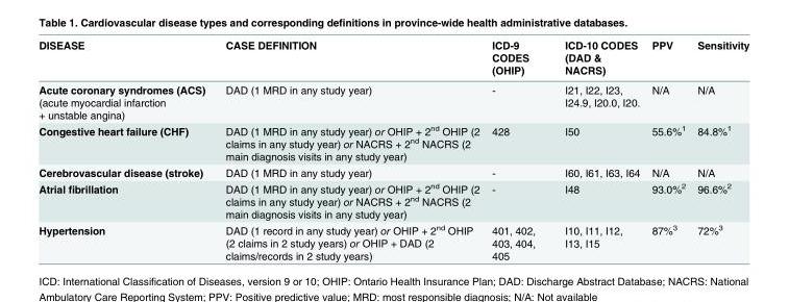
<table><thead><tr><td>DISEASE</td><td>CASE DEFINITION</td><td>ICD-9 CODES (OHIP)</td><td>ICD-10 CODES (DAD &amp; NACRS)</td><td>PPV</td><td>Sensitivity</td></tr></thead><tbody><tr><td>Acute coronary syndromes (ACS) (acute myocardial infarction + unstable angina)</td><td>DAD (1 MRD in any study year)</td><td>-</td><td>I21, I22, I23, I24.9, I20.0, I20.</td><td>N/A</td><td>N/A</td></tr><tr><td>Congestive heart failure (CHF)</td><td>DAD (1 MRD in any study year) or OHIP + 2<sup>nd</sup> OHIP (2 claims in any study year) or NACRS + 2<sup>nd</sup> NACRS (2 main diagnosis visits in any study year)</td><td>428</td><td>I50</td><td>55.6%<sup>1</sup></td><td>84.8%<sup>1</sup></td></tr><tr><td>Cerebrovascular disease (stroke)</td><td>DAD (1 MRD in any study year)</td><td>-</td><td>I60, I61, I63, I64</td><td>N/A</td><td>N/A</td></tr><tr><td>Atrial fibrillation</td><td>DAD (1 MRD in any study year) or OHIP + 2<sup>nd</sup> OHIP (2 claims in any study year) or NACRS + 2<sup>nd</sup> NACRS (2 main diagnosis visits in any study year)</td><td>-</td><td>I48</td><td>93.0%<sup>2</sup></td><td>96.6%<sup>2</sup></td></tr><tr><td>Hypertension</td><td>DAD (1 record in any study year) or OHIP + 2<sup>nd</sup> OHIP (2 claims in 2 study years) or OHIP + DAD (2 claims/records in 2 study years)</td><td>401, 402, 403, 404, 405</td><td>I10, I11, I12, I13, I15</td><td>87%<sup>3</sup></td><td>72%<sup>3</sup></td></tr></tbody></table>